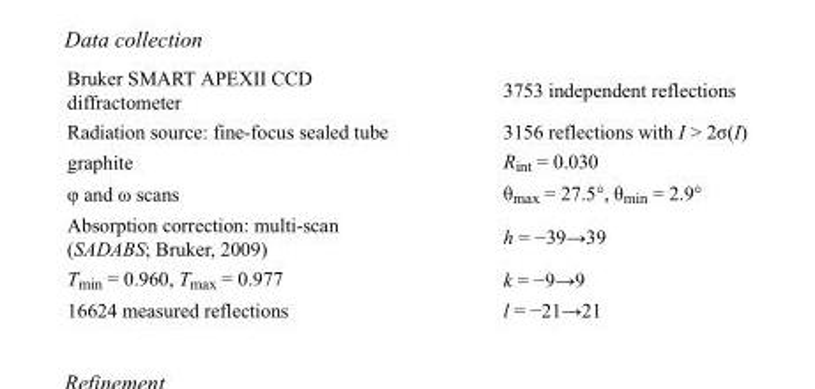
<table><tbody><tr><td>Bruker SMART APEXII CCD diffractometer</td><td>3753 independent reflections</td></tr><tr><td>Radiation source: fine-focus sealed tube</td><td>3156 reflections with I &gt; 2σ(I)</td></tr><tr><td>graphite</td><td>R<sub>int</sub> = 0.030</td></tr><tr><td>φ and ω scans</td><td>θ<sub>max</sub> = 27.5°, θ<sub>min</sub> = 2.9°</td></tr><tr><td>Absorption correction: multi-scan (SADABS; Bruker, 2009)</td><td>h = −39→39</td></tr><tr><td>T<sub>min</sub> = 0.960, T<sub>max</sub> = 0.977</td><td>k = −9→9</td></tr><tr><td>16624 measured reflections</td><td>l = −21→21</td></tr></tbody></table>